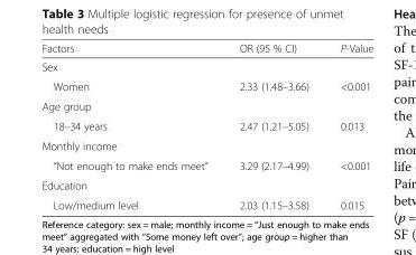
<table><thead><tr><td>Factors</td><td>OR (95 % CI)</td><td>P-Value</td></tr></thead><tbody><tr><td colspan="3">Sex</td></tr><tr><td>Women</td><td>2.33 (1.48–3.66)</td><td>&lt;0.001</td></tr><tr><td colspan="3">Age group</td></tr><tr><td>18–34 years</td><td>2.47 (1.21–5.05)</td><td>0.013</td></tr><tr><td colspan="3">Monthly income</td></tr><tr><td>“Not enough to make ends meet”</td><td>3.29 (2.17–4.99)</td><td>&lt;0.001</td></tr><tr><td colspan="3">Education</td></tr><tr><td>Low/medium level</td><td>2.03 (1.15–3.58)</td><td>0.015</td></tr></tbody></table>